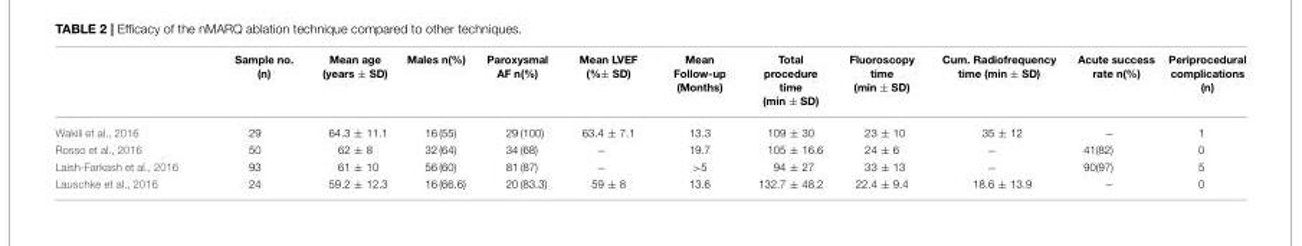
<table><thead><tr><td></td><td>Sample no. (n)</td><td>Mean age (years ± SD)</td><td>Males n(%)</td><td>Paroxysmal AF n(%)</td><td>Mean LVEF (%± SD)</td><td>Mean Follow-up (Months)</td><td>Total procedure time (min ± SD)</td><td>Fluoroscopy time (min ± SD)</td><td>Cum. Radiofrequency time (min ± SD)</td><td>Acute success rate n(%)</td><td>Periprocedural complications (n)</td></tr></thead><tbody><tr><td>Wakili et al., 2016</td><td>29</td><td>64.3 ± 11.1</td><td>16 (55)</td><td>29 (100)</td><td>63.4 ± 7.1</td><td>13.3</td><td>109 ± 30</td><td>23 ± 10</td><td>35 ± 12</td><td>−</td><td>1</td></tr><tr><td>Rosso et al., 2016</td><td>50</td><td>62 ± 8</td><td>32 (64)</td><td>34 (68)</td><td>−</td><td>19.7</td><td>105 ± 16.6</td><td>24 ± 6</td><td>−</td><td>41(82)</td><td>0</td></tr><tr><td>Laish-Farkash et al., 2016</td><td>93</td><td>61 ± 10</td><td>56 (60)</td><td>81 (87)</td><td>−</td><td>&gt;5</td><td>94 ± 27</td><td>33 ± 13</td><td>−</td><td>90(97)</td><td>5</td></tr><tr><td>Lauschke et al., 2016</td><td>24</td><td>59.2 ± 12.3</td><td>16 (66.6)</td><td>20 (83.3)</td><td>59 ± 8</td><td>13.6</td><td>132.7 ± 48.2</td><td>22.4 ± 9.4</td><td>18.6 ± 13.9</td><td>−</td><td>0</td></tr></tbody></table>